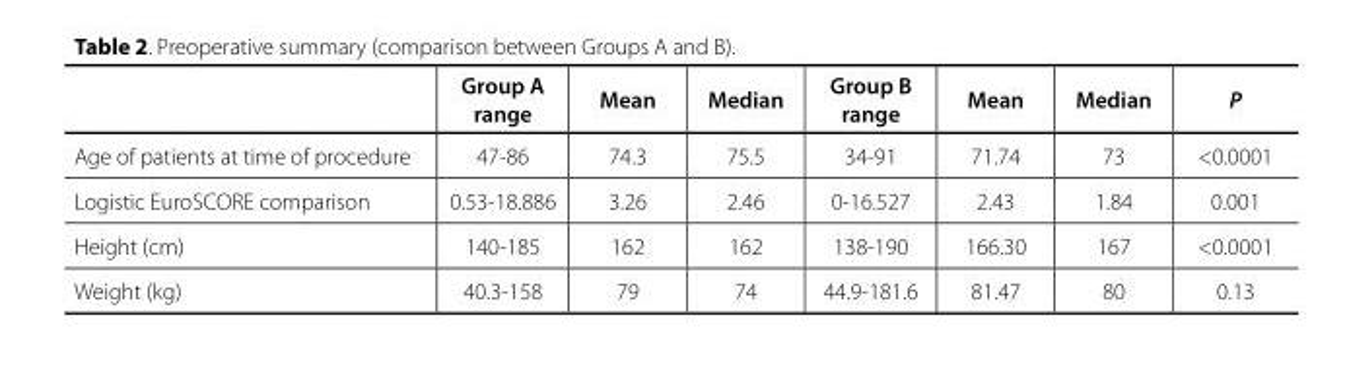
<table><thead><tr><td></td><td>Group A range</td><td>Mean</td><td>Median</td><td>Group B range</td><td>Mean</td><td>Median</td><td>P</td></tr></thead><tbody><tr><td>Age of patients at time of procedure</td><td>47-86</td><td>74.3</td><td>75.5</td><td>34-91</td><td>71.74</td><td>73</td><td>&lt;0.0001</td></tr><tr><td>Logistic EuroSCORE comparison</td><td>0.53-18.886</td><td>3.26</td><td>2.46</td><td>0-16.527</td><td>2.43</td><td>1.84</td><td>0.001</td></tr><tr><td>Height (cm)</td><td>140-185</td><td>162</td><td>162</td><td>138-190</td><td>166.30</td><td>167</td><td>&lt;0.0001</td></tr><tr><td>Weight (kg)</td><td>40.3-158</td><td>79</td><td>74</td><td>44.9-181.6</td><td>81.47</td><td>80</td><td>0.13</td></tr></tbody></table>